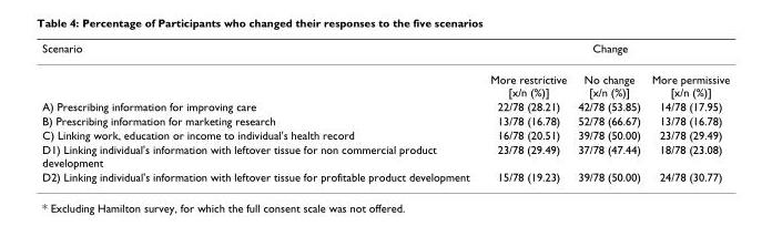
<table><thead><tr><td rowspan="2">Scenario</td><td colspan="3">Change</td></tr><tr><td>More restrictive [x/n (%)]</td><td>No change [x/n (%)]</td><td>More permissive [x/n (%)]</td></tr></thead><tbody><tr><td>A) Prescribing information for improving care</td><td>22/78 (28.21)</td><td>42/78 (53.85)</td><td>14/78 (17.95)</td></tr><tr><td>B) Prescribing information for marketing research</td><td>13/78 (16.78)</td><td>52/78 (66.67)</td><td>13/78 (16.78)</td></tr><tr><td>C) Linking work, education or income to individual&#x27;s health record</td><td>16/78 (20.51)</td><td>39/78 (50.00)</td><td>23/78 (29.49)</td></tr><tr><td>D1) Linking individual&#x27;s information with leftover tissue for non commercial product development</td><td>23/78 (29.49)</td><td>37/78 (47.44)</td><td>18/78 (23.08)</td></tr><tr><td>D2) Linking individual&#x27;s information with leftover tissue for profitable product development</td><td>15/78 (19.23)</td><td>39/78 (50.00)</td><td>24/78 (30.77)</td></tr></tbody></table>